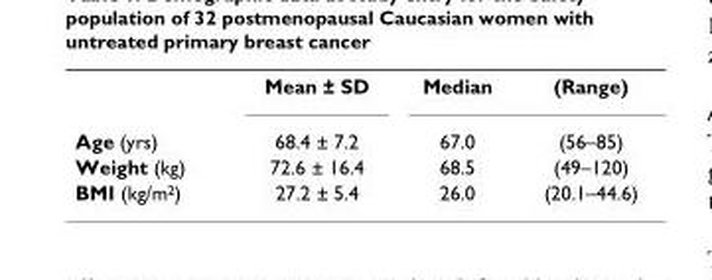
<table><thead><tr><td></td><td>Mean ± SD</td><td>Median</td><td>(Range)</td></tr></thead><tbody><tr><td>Age (yrs)</td><td>68.4 ± 7.2</td><td>67.0</td><td>(56–85)</td></tr><tr><td>Weight (kg)</td><td>72.6 ± 16.4</td><td>68.5</td><td>(49–120)</td></tr><tr><td>BMI (kg/m<sup>2</sup>)</td><td>27.2 ± 5.4</td><td>26.0</td><td>(20.1–44.6)</td></tr></tbody></table>